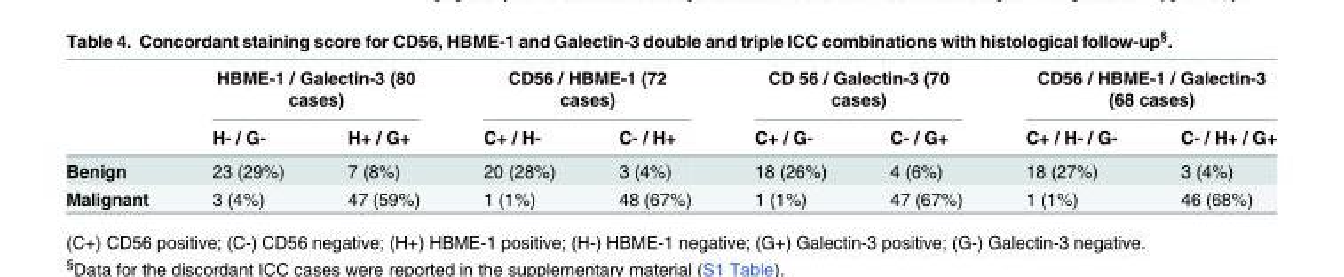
<table><thead><tr><td rowspan="2"></td><td colspan="2">HBME-1 / Galectin-3 (80 cases)</td><td colspan="2">CD56 / HBME-1 (72 cases)</td><td colspan="2">CD 56 / Galectin-3 (70 cases)</td><td colspan="2">CD56 / HBME-1 / Galectin-3 (68 cases)</td></tr><tr><td>H- / G-</td><td>H+ / G+</td><td>C+ / H-</td><td>C- / H+</td><td>C+ / G-</td><td>C- / G+</td><td>C+ / H- / G-</td><td>C- / H+ / G+</td></tr></thead><tbody><tr><td>Benign</td><td>23 (29%)</td><td>7 (8%)</td><td>20 (28%)</td><td>3 (4%)</td><td>18 (26%)</td><td>4 (6%)</td><td>18 (27%)</td><td>3 (4%)</td></tr><tr><td>Malignant</td><td>3 (4%)</td><td>47 (59%)</td><td>1 (1%)</td><td>48 (67%)</td><td>1 (1%)</td><td>47 (67%)</td><td>1 (1%)</td><td>46 (68%)</td></tr></tbody></table>